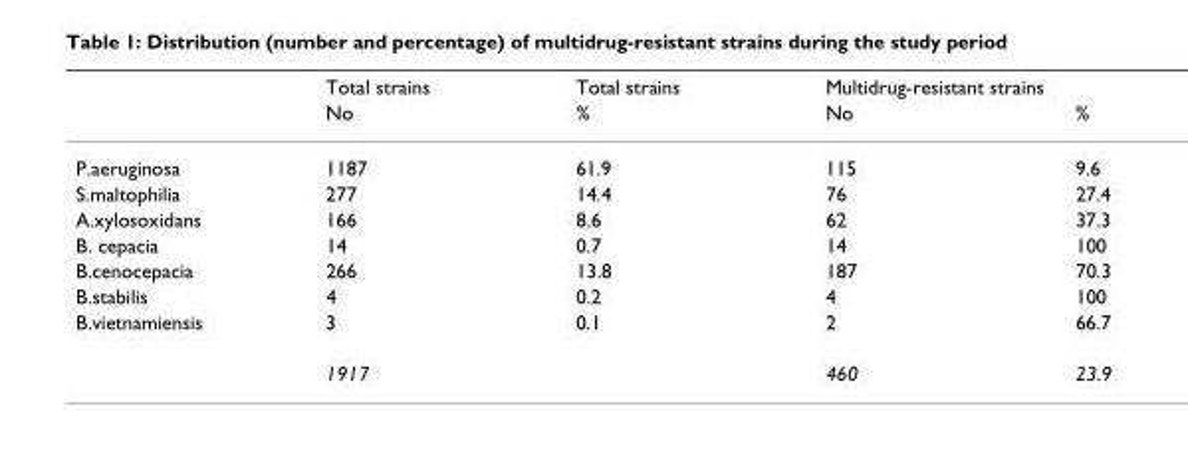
<table><thead><tr><td rowspan="2"></td><td rowspan="2">Total strains No</td><td rowspan="2">Total strains %</td><td colspan="2">Multidrug-resistant strains</td></tr><tr><td>No</td><td>%</td></tr></thead><tbody><tr><td>P.aeruginosa</td><td>1187</td><td>61.9</td><td>115</td><td>9.6</td></tr><tr><td>S.maltophilia</td><td>277</td><td>14.4</td><td>76</td><td>27.4</td></tr><tr><td>A.xylosoxidans</td><td>166</td><td>8.6</td><td>62</td><td>37.3</td></tr><tr><td>B. cepacia</td><td>14</td><td>0.7</td><td>14</td><td>100</td></tr><tr><td>B.cenocepacia</td><td>266</td><td>13.8</td><td>187</td><td>70.3</td></tr><tr><td>B.stabilis</td><td>4</td><td>0.2</td><td>4</td><td>100</td></tr><tr><td rowspan="2">B.vietnamiensis</td><td>3</td><td>0.1</td><td>2</td><td>66.7</td></tr><tr><td>1917</td><td></td><td>460</td><td>23.9</td></tr></tbody></table>